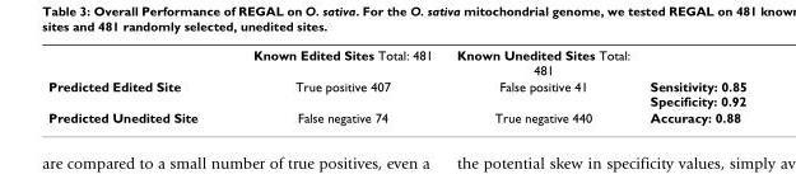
<table><thead><tr><td></td><td>Known Edited Sites Total: 481</td><td>Known Unedited Sites Total: 481</td><td></td></tr></thead><tbody><tr><td>Predicted Edited Site</td><td>True positive 407</td><td>False positive 41</td><td>Sensitivity: 0.85 Specificity: 0.92</td></tr><tr><td>Predicted Unedited Site</td><td>False negative 74</td><td>True negative 440</td><td>Accuracy: 0.88</td></tr></tbody></table>